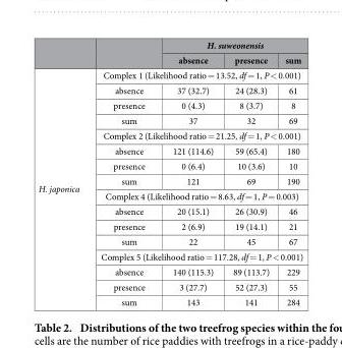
<table><thead><tr><td rowspan="2"></td><td rowspan="2"></td><td colspan="3">H. suweonensis</td></tr><tr><td>absence</td><td>presence</td><td>sum</td></tr></thead><tbody><tr><td rowspan="16">H. japonica</td><td colspan="4">Complex 1 (Likelihood ratio = 13.52, df = 1, P &lt; 0.001)</td></tr><tr><td>absence</td><td>37 (32.7)</td><td>24 (28.3)</td><td>61</td></tr><tr><td>presence</td><td>0 (4.3)</td><td>8 (3.7)</td><td>8</td></tr><tr><td>sum</td><td>37</td><td>32</td><td>69</td></tr><tr><td colspan="4">Complex 2 (Likelihood ratio = 21.25, df = 1, P &lt; 0.001)</td></tr><tr><td>absence</td><td>121 (114.6)</td><td>59 (65.4)</td><td>180</td></tr><tr><td>presence</td><td>0 (6.4)</td><td>10 (3.6)</td><td>10</td></tr><tr><td>sum</td><td>121</td><td>69</td><td>190</td></tr><tr><td colspan="4">Complex 4 (Likelihood ratio = 8.63, df = 1, P = 0.003)</td></tr><tr><td>absence</td><td>20 (15.1)</td><td>26 (30.9)</td><td>46</td></tr><tr><td>presence</td><td>2 (6.9)</td><td>19 (14.1)</td><td>21</td></tr><tr><td>sum</td><td>22</td><td>45</td><td>67</td></tr><tr><td colspan="4">Complex 5 (Likelihood ratio = 117.28, df = 1, P &lt; 0.001)</td></tr><tr><td>absence</td><td>140 (115.3)</td><td>89 (113.7)</td><td>229</td></tr><tr><td>presence</td><td>3 (27.7)</td><td>52 (27.3)</td><td>55</td></tr><tr><td>sum</td><td>143</td><td>141</td><td>284</td></tr></tbody></table>